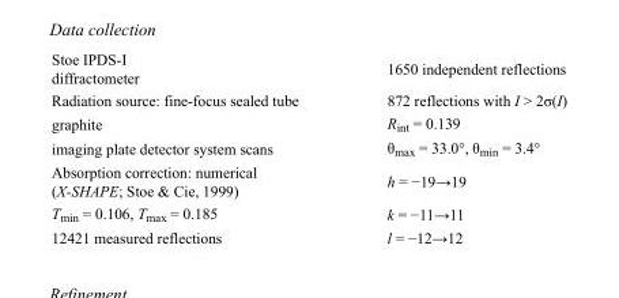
<table><tbody><tr><td>Stoe IPDS-I diffractometer</td><td>1650 independent reflections</td></tr><tr><td>Radiation source: fine-focus sealed tube</td><td>872 reflections with I &gt; 2σ(I)</td></tr><tr><td>graphite</td><td>R<sub>int</sub> = 0.139</td></tr><tr><td>imaging plate detector system scans</td><td>θ<sub>max</sub> = 33.0°, θ<sub>min</sub> = 3.4°</td></tr><tr><td>Absorption correction: numerical (X-SHAPE; Stoe &amp; Cie, 1999)</td><td>h = −19→19</td></tr><tr><td>T<sub>min</sub> = 0.106, T<sub>max</sub> = 0.185</td><td>k = −11→11</td></tr><tr><td>12421 measured reflections</td><td>l = −12→12</td></tr></tbody></table>